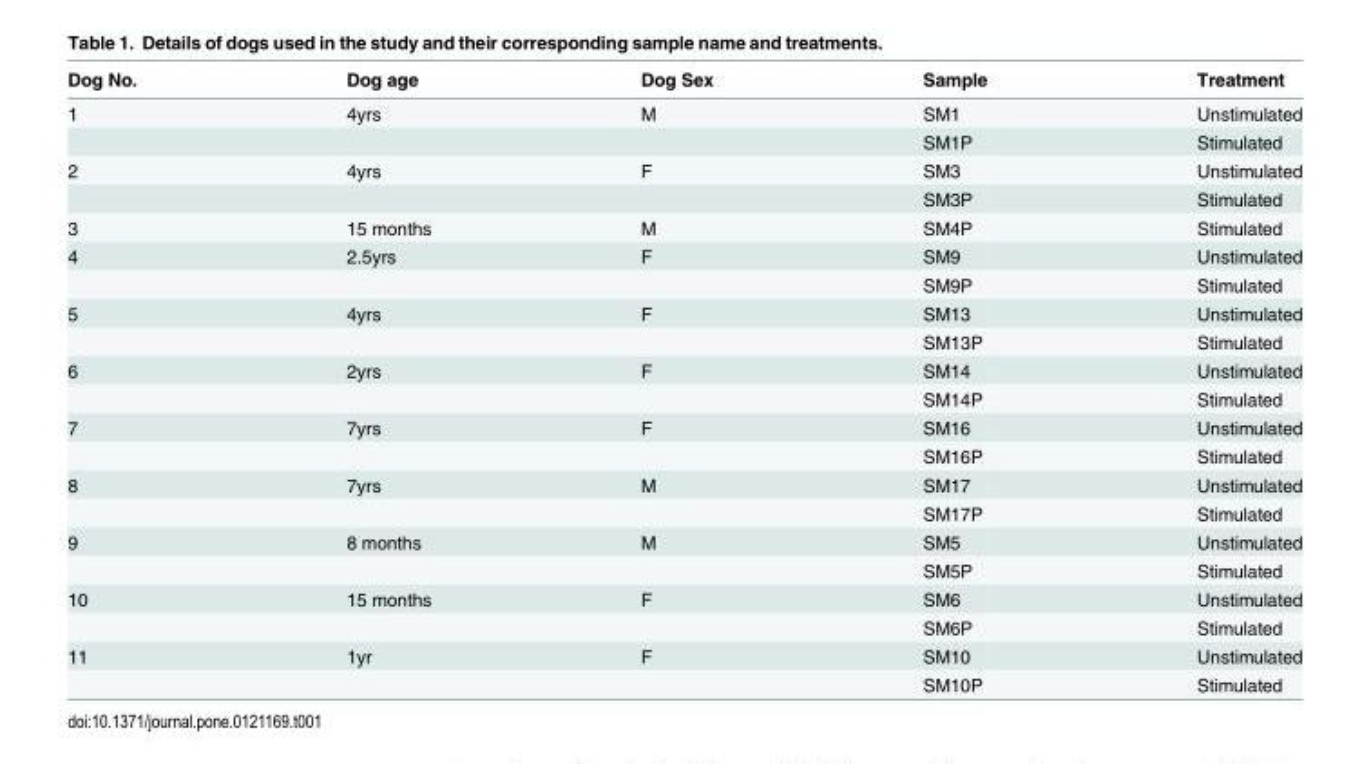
<table><thead><tr><td>Dog No.</td><td>Dog age</td><td>Dog Sex</td><td>Sample</td><td>Treatment</td></tr></thead><tbody><tr><td rowspan="2">1</td><td>4yrs</td><td>M</td><td>SM1</td><td>Unstimulated</td></tr><tr><td></td><td></td><td>SM1P</td><td>Stimulated</td></tr><tr><td rowspan="2">2</td><td>4yrs</td><td>F</td><td>SM3</td><td>Unstimulated</td></tr><tr><td></td><td></td><td>SM3P</td><td>Stimulated</td></tr><tr><td>3</td><td>15 months</td><td>M</td><td>SM4P</td><td>Stimulated</td></tr><tr><td rowspan="2">4</td><td>2.5yrs</td><td>F</td><td>SM9</td><td>Unstimulated</td></tr><tr><td></td><td></td><td>SM9P</td><td>Stimulated</td></tr><tr><td rowspan="2">5</td><td>4yrs</td><td>F</td><td>SM13</td><td>Unstimulated</td></tr><tr><td></td><td></td><td>SM13P</td><td>Stimulated</td></tr><tr><td rowspan="2">6</td><td>2yrs</td><td>F</td><td>SM14</td><td>Unstimulated</td></tr><tr><td></td><td></td><td>SM14P</td><td>Stimulated</td></tr><tr><td rowspan="2">7</td><td>7yrs</td><td>F</td><td>SM16</td><td>Unstimulated</td></tr><tr><td></td><td></td><td>SM16P</td><td>Stimulated</td></tr><tr><td rowspan="2">8</td><td>7yrs</td><td>M</td><td>SM17</td><td>Unstimulated</td></tr><tr><td></td><td></td><td>SM17P</td><td>Stimulated</td></tr><tr><td rowspan="2">9</td><td>8 months</td><td>M</td><td>SM5</td><td>Unstimulated</td></tr><tr><td></td><td></td><td>SM5P</td><td>Stimulated</td></tr><tr><td rowspan="2">10</td><td>15 months</td><td>F</td><td>SM6</td><td>Unstimulated</td></tr><tr><td></td><td></td><td>SM6P</td><td>Stimulated</td></tr><tr><td rowspan="2">11</td><td>1yr</td><td>F</td><td>SM10</td><td>Unstimulated</td></tr><tr><td></td><td></td><td>SM10P</td><td>Stimulated</td></tr></tbody></table>